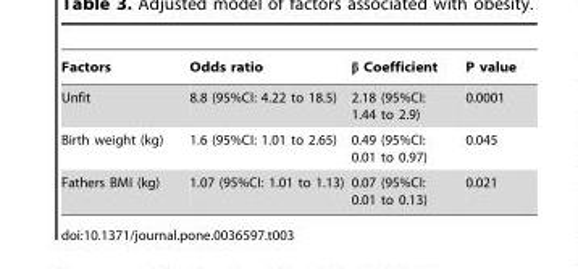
<table><thead><tr><td>Factors</td><td>Odds ratio</td><td>β Coefficient</td><td>P value</td></tr></thead><tbody><tr><td>Unfit</td><td>8.8 (95%CI: 4.22 to 18.5)</td><td>2.18 (95%CI: 1.44 to 2.9)</td><td>0.0001</td></tr><tr><td>Birth weight (kg)</td><td>1.6 (95%CI: 1.01 to 2.65)</td><td>0.49 (95%CI: 0.01 to 0.97)</td><td>0.045</td></tr><tr><td>Fathers BMI (kg)</td><td>1.07 (95%CI: 1.01 to 1.13)</td><td>0.07 (95%CI: 0.01 to 0.13)</td><td>0.021</td></tr></tbody></table>